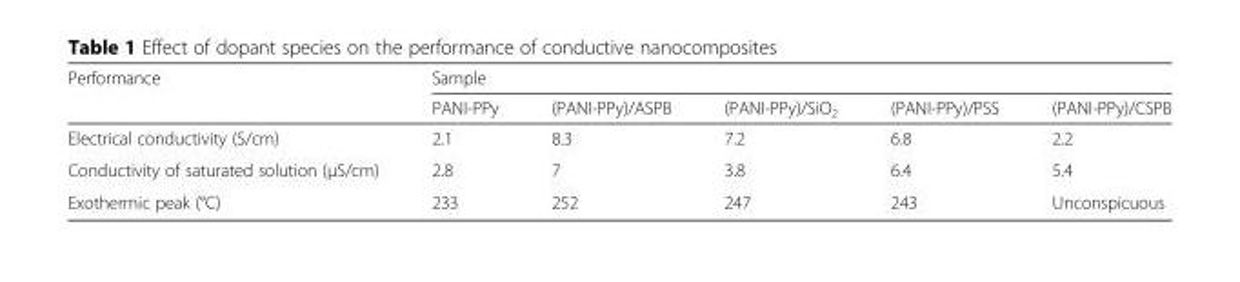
<table><thead><tr><td rowspan="2">Performance</td><td colspan="5">Sample</td></tr><tr><td>PANI-PPy</td><td>(PANI-PPy)/ASPB</td><td>(PANI-PPy)/SiO<sub>2</sub></td><td>(PANI-PPy)/PSS</td><td>(PANI-PPy)/CSPB</td></tr></thead><tbody><tr><td>Electrical conductivity (S/cm)</td><td>2.1</td><td>8.3</td><td>7.2</td><td>6.8</td><td>2.2</td></tr><tr><td>Conductivity of saturated solution (μS/cm)</td><td>2.8</td><td>7</td><td>3.8</td><td>6.4</td><td>5.4</td></tr><tr><td>Exothermic peak (°C)</td><td>233</td><td>252</td><td>247</td><td>243</td><td>Unconspicuous</td></tr></tbody></table>